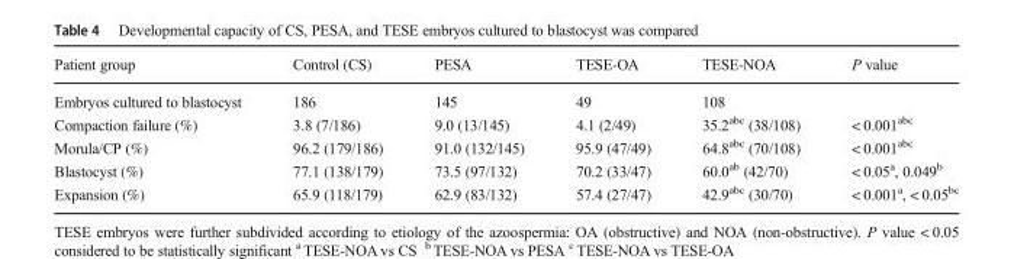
<table><thead><tr><td>Patient group</td><td>Control (CS)</td><td>PESA</td><td>TESE-OA</td><td>TESE-NOA</td><td>P value</td></tr></thead><tbody><tr><td>Embryos cultured to blastocyst</td><td>186</td><td>145</td><td>49</td><td>108</td><td></td></tr><tr><td>Compaction failure (%)</td><td>3.8 (7/186)</td><td>9.0 (13/145)</td><td>4.1 (2/49)</td><td>35.2<sup>abc</sup> (38/108)</td><td>&lt; 0.001<sup>abc</sup></td></tr><tr><td>Morula/CP (%)</td><td>96.2 (179/186)</td><td>91.0 (132/145)</td><td>95.9 (47/49)</td><td>64.8<sup>abc</sup> (70/108)</td><td>&lt; 0.001<sup>abc</sup></td></tr><tr><td>Blastocyst (%)</td><td>77.1 (138/179)</td><td>73.5 (97/132)</td><td>70.2 (33/47)</td><td>60.0<sup>ab</sup> (42/70)</td><td>&lt; 0.05<sup>a</sup>, 0.049<sup>b</sup></td></tr><tr><td>Expansion (%)</td><td>65.9 (118/179)</td><td>62.9 (83/132)</td><td>57.4 (27/47)</td><td>42.9<sup>abc</sup> (30/70)</td><td>&lt; 0.001<sup>a</sup>, &lt; 0.05<sup>bc</sup></td></tr></tbody></table>